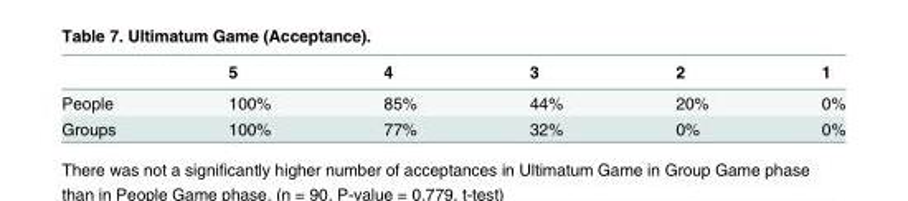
<table><thead><tr><td></td><td>5</td><td>4</td><td>3</td><td>2</td><td>1</td></tr></thead><tbody><tr><td>People</td><td>100%</td><td>85%</td><td>44%</td><td>20%</td><td>0%</td></tr><tr><td>Groups</td><td>100%</td><td>77%</td><td>32%</td><td>0%</td><td>0%</td></tr></tbody></table>